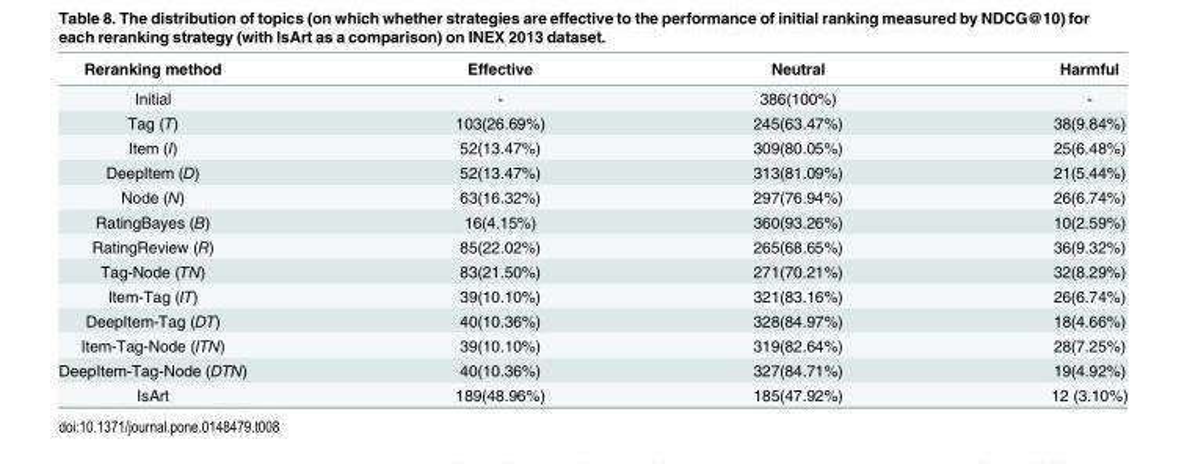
<table><thead><tr><td>Reranking method</td><td>Effective</td><td>Neutral</td><td>Harmful</td></tr></thead><tbody><tr><td>Initial</td><td>-</td><td>386(100%)</td><td>-</td></tr><tr><td>Tag (T)</td><td>103(26.69%)</td><td>245(63.47%)</td><td>38(9.84%)</td></tr><tr><td>Item (I)</td><td>52(13.47%)</td><td>309(80.05%)</td><td>25(6.48%)</td></tr><tr><td>DeepItem (D)</td><td>52(13.47%)</td><td>313(81.09%)</td><td>21(5.44%)</td></tr><tr><td>Node (N)</td><td>63(16.32%)</td><td>297(76.94%)</td><td>26(6.74%)</td></tr><tr><td>RatingBayes (B)</td><td>16(4.15%)</td><td>360(93.26%)</td><td>10(2.59%)</td></tr><tr><td>RatingReview (R)</td><td>85(22.02%)</td><td>265(68.65%)</td><td>36(9.32%)</td></tr><tr><td>Tag-Node (TN)</td><td>83(21.50%)</td><td>271(70.21%)</td><td>32(8.29%)</td></tr><tr><td>Item-Tag (IT)</td><td>39(10.10%)</td><td>321(83.16%)</td><td>26(6.74%)</td></tr><tr><td>DeepItem-Tag (DT)</td><td>40(10.36%)</td><td>328(84.97%)</td><td>18(4.66%)</td></tr><tr><td>Item-Tag-Node (ITN)</td><td>39(10.10%)</td><td>319(82.64%)</td><td>28(7.25%)</td></tr><tr><td>DeepItem-Tag-Node (DTN)</td><td>40(10.36%)</td><td>327(84.71%)</td><td>19(4.92%)</td></tr><tr><td>IsArt</td><td>189(48.96%)</td><td>185(47.92%)</td><td>12 (3.10%)</td></tr></tbody></table>